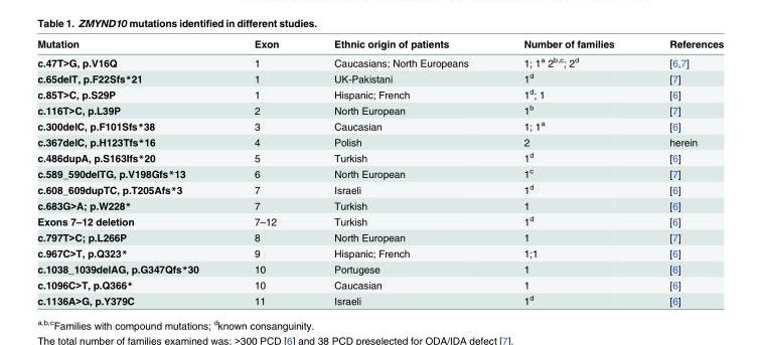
<table><thead><tr><td>Mutation</td><td>Exon</td><td>Ethnic origin of patients</td><td>Number of families</td><td>References</td></tr></thead><tbody><tr><td>c.47T&gt;G, p.V16Q</td><td>1</td><td>Caucasians; North Europeans</td><td>1; 1<sup>a</sup> 2<sup>b,c</sup>; 2<sup>d</sup></td><td>[6,7]</td></tr><tr><td>c.65delT, p.F22Sfs*21</td><td>1</td><td>UK-Pakistani</td><td>1<sup>d</sup></td><td>[7]</td></tr><tr><td>c.85T&gt;C, p.S29P</td><td>1</td><td>Hispanic; French</td><td>1<sup>d</sup>; 1</td><td>[6]</td></tr><tr><td>c.116T&gt;C, p.L39P</td><td>2</td><td>North European</td><td>1<sup>b</sup></td><td>[7]</td></tr><tr><td>c.300delC, p.F101Sfs*38</td><td>3</td><td>Caucasian</td><td>1; 1<sup>a</sup></td><td>[6]</td></tr><tr><td>c.367delC, p.H123Tfs*16</td><td>4</td><td>Polish</td><td>2</td><td>herein</td></tr><tr><td>c.486dupA, p.S163Ifs*20</td><td>5</td><td>Turkish</td><td>1<sup>d</sup></td><td>[6]</td></tr><tr><td>c.589_590delTG, p.V198Gfs*13</td><td>6</td><td>North European</td><td>1<sup>c</sup></td><td>[7]</td></tr><tr><td>c.608_609dupTC, p.T205Afs*3</td><td>7</td><td>Israeli</td><td>1<sup>d</sup></td><td>[6]</td></tr><tr><td>c.683G&gt;A; p.W228*</td><td>7</td><td>Turkish</td><td>1</td><td>[6]</td></tr><tr><td>Exons 7–12 deletion</td><td>7–12</td><td>Turkish</td><td>1<sup>d</sup></td><td>[6]</td></tr><tr><td>c.797T&gt;C; p.L266P</td><td>8</td><td>North European</td><td>1</td><td>[7]</td></tr><tr><td>c.967C&gt;T, p.Q323*</td><td>9</td><td>Hispanic; French</td><td>1;1</td><td>[6]</td></tr><tr><td>c.1038_1039delAG, p.G347Qfs*30</td><td>10</td><td>Portugese</td><td>1</td><td>[6]</td></tr><tr><td>c.1096C&gt;T, p.Q366*</td><td>10</td><td>Caucasian</td><td>1</td><td>[6]</td></tr><tr><td>c.1136A&gt;G, p.Y379C</td><td>11</td><td>Israeli</td><td>1<sup>d</sup></td><td>[6]</td></tr></tbody></table>